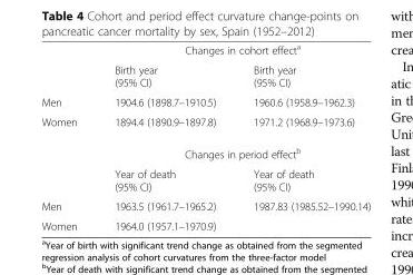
<table><thead><tr><td rowspan="2"></td><td colspan="2">Changes in cohort effect<sup>a</sup></td></tr><tr><td>Birth year (95% CI)</td><td>Birth year (95% CI)</td></tr></thead><tbody><tr><td>Men</td><td>1904.6 (1898.7–1910.5)</td><td>1960.6 (1958.9–1962.3)</td></tr><tr><td rowspan="3">Women</td><td>1894.4 (1890.9–1897.8)</td><td>1971.2 (1968.9–1973.6)</td></tr><tr><td colspan="2">Changes in period effect<sup>b</sup></td></tr><tr><td>Year of death (95% CI)</td><td>Year of death (95% CI)</td></tr><tr><td>Men</td><td>1963.5 (1961.7–1965.2)</td><td>1987.83 (1985.52–1990.14)</td></tr><tr><td>Women</td><td>1964.0 (1957.1–1970.9)</td><td></td></tr></tbody></table>